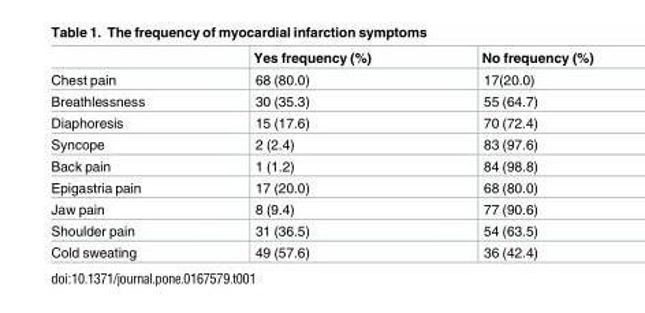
<table><thead><tr><td></td><td>Yes frequency (%)</td><td>No frequency (%)</td></tr></thead><tbody><tr><td>Chest pain</td><td>68 (80.0)</td><td>17(20.0)</td></tr><tr><td>Breathlessness</td><td>30 (35.3)</td><td>55 (64.7)</td></tr><tr><td>Diaphoresis</td><td>15 (17.6)</td><td>70 (72.4)</td></tr><tr><td>Syncope</td><td>2 (2.4)</td><td>83 (97.6)</td></tr><tr><td>Back pain</td><td>1 (1.2)</td><td>84 (98.8)</td></tr><tr><td>Epigastria pain</td><td>17 (20.0)</td><td>68 (80.0)</td></tr><tr><td>Jaw pain</td><td>8 (9.4)</td><td>77 (90.6)</td></tr><tr><td>Shoulder pain</td><td>31 (36.5)</td><td>54 (63.5)</td></tr><tr><td>Cold sweating</td><td>49 (57.6)</td><td>36 (42.4)</td></tr></tbody></table>